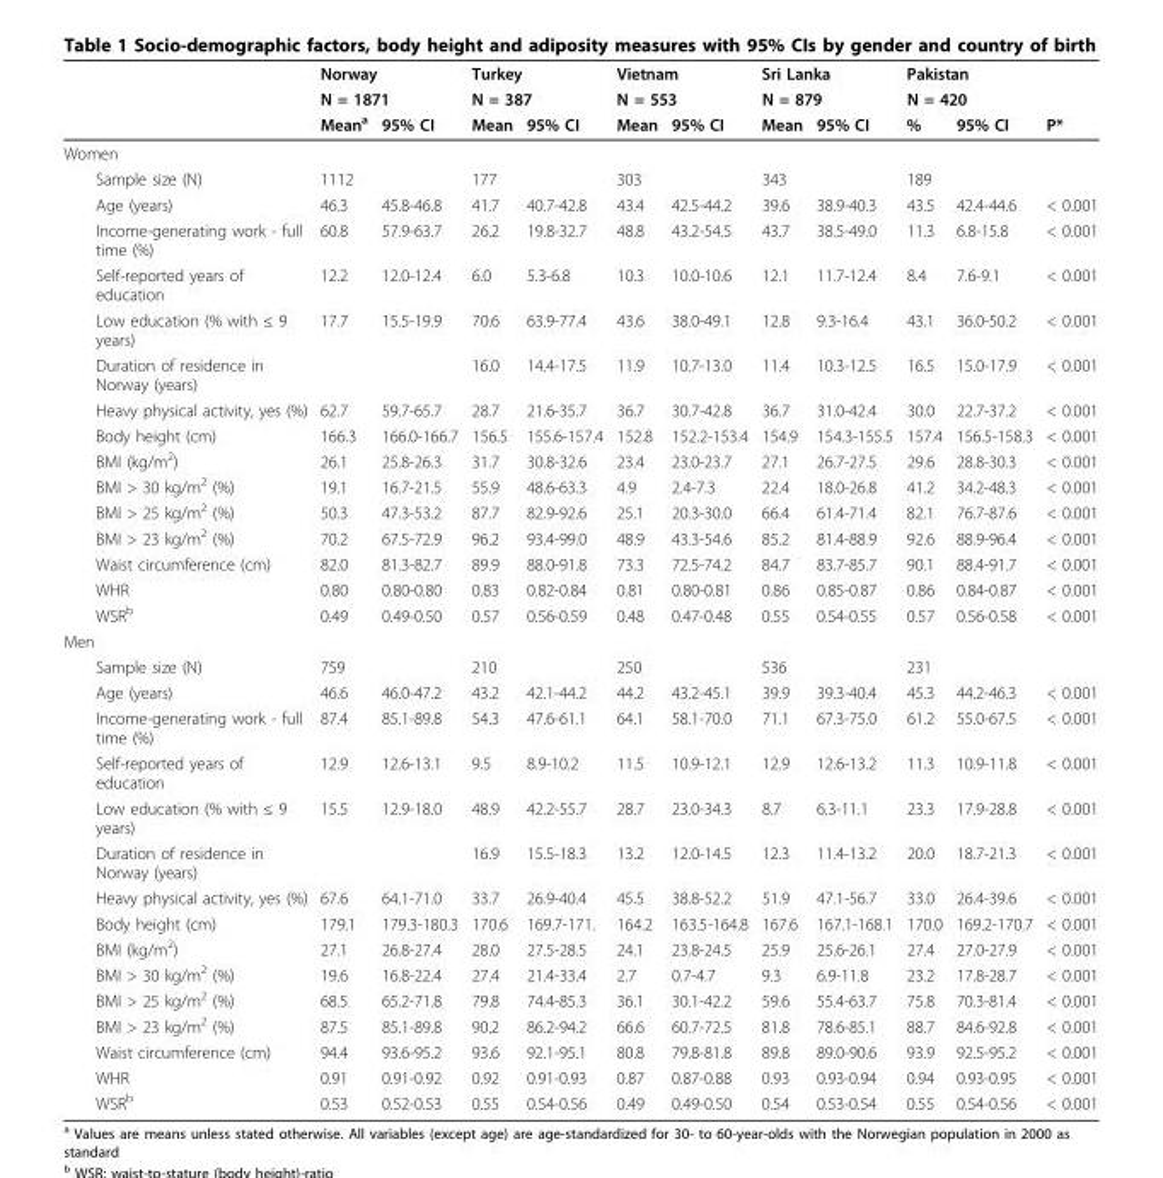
<table><thead><tr><td rowspan="3"></td><td rowspan="2" colspan="2">Norway N = 1871</td><td rowspan="2" colspan="2">Turkey N = 387</td><td rowspan="2" colspan="2">Vietnam N = 553</td><td rowspan="2" colspan="2">Sri Lanka N = 879</td><td rowspan="2" colspan="2">Pakistan N = 420</td><td rowspan="3">P*</td></tr><tr></tr><tr><td>Mean<sup>a</sup></td><td>95% CI</td><td>Mean</td><td>95% CI</td><td>Mean</td><td>95% CI</td><td>Mean</td><td>95% CI</td><td>%</td><td>95% CI</td></tr></thead><tbody><tr><td colspan="12">Women</td></tr><tr><td>Sample size (N)</td><td>1112</td><td></td><td>177</td><td></td><td>303</td><td></td><td>343</td><td></td><td>189</td><td></td><td></td></tr><tr><td>Age (years)</td><td>46.3</td><td>45.8-46.8</td><td>41.7</td><td>40.7-42.8</td><td>43.4</td><td>42.5-44.2</td><td>39.6</td><td>38.9-40.3</td><td>43.5</td><td>42.4-44.6</td><td>&lt; 0.001</td></tr><tr><td>Income-generating work - full time (%)</td><td>60.8</td><td>57.9-63.7</td><td>26.2</td><td>19.8-32.7</td><td>48.8</td><td>43.2-54.5</td><td>43.7</td><td>38.5-49.0</td><td>11.3</td><td>6.8-15.8</td><td>&lt; 0.001</td></tr><tr><td>Self-reported years of education</td><td>12.2</td><td>12.0-12.4</td><td>6.0</td><td>5.3-6.8</td><td>10.3</td><td>10.0-10.6</td><td>12.1</td><td>11.7-12.4</td><td>8.4</td><td>7.6-9.1</td><td>&lt; 0.001</td></tr><tr><td>Low education (% with ≤ 9 years)</td><td>17.7</td><td>15.5-19.9</td><td>70.6</td><td>63.9-77.4</td><td>43.6</td><td>38.0-49.1</td><td>12.8</td><td>9.3-16.4</td><td>43.1</td><td>36.0-50.2</td><td>&lt; 0.001</td></tr><tr><td>Duration of residence in Norway (years)</td><td></td><td></td><td>16.0</td><td>14.4-17.5</td><td>11.9</td><td>10.7-13.0</td><td>11.4</td><td>10.3-12.5</td><td>16.5</td><td>15.0-17.9</td><td>&lt; 0.001</td></tr><tr><td>Heavy physical activity, yes (%)</td><td>62.7</td><td>59.7-65.7</td><td>28.7</td><td>21.6-35.7</td><td>36.7</td><td>30.7-42.8</td><td>36.7</td><td>31.0-42.4</td><td>30.0</td><td>22.7-37.2</td><td>&lt; 0.001</td></tr><tr><td>Body height (cm)</td><td>166.3</td><td>166.0-166.7</td><td>156.5</td><td>155.6-157.4</td><td>152.8</td><td>152.2-153.4</td><td>154.9</td><td>154.3-155.5</td><td>157.4</td><td>156.5-158.3</td><td>&lt; 0.001</td></tr><tr><td>BMI (kg/m<sup>2</sup>)</td><td>26.1</td><td>25.8-26.3</td><td>31.7</td><td>30.8-32.6</td><td>23.4</td><td>23.0-23.7</td><td>27.1</td><td>26.7-27.5</td><td>29.6</td><td>28.8-30.3</td><td>&lt; 0.001</td></tr><tr><td>BMI &gt; 30 kg/m<sup>2</sup> (%)</td><td>19.1</td><td>16.7-21.5</td><td>55.9</td><td>48.6-63.3</td><td>4.9</td><td>2.4-7.3</td><td>22.4</td><td>18.0-26.8</td><td>41.2</td><td>34.2-48.3</td><td>&lt; 0.001</td></tr><tr><td>BMI &gt; 25 kg/m<sup>2</sup> (%)</td><td>50.3</td><td>47.3-53.2</td><td>87.7</td><td>82.9-92.6</td><td>25.1</td><td>20.3-30.0</td><td>66.4</td><td>61.4-71.4</td><td>82.1</td><td>76.7-87.6</td><td>&lt; 0.001</td></tr><tr><td>BMI &gt; 23 kg/m<sup>2</sup> (%)</td><td>70.2</td><td>67.5-72.9</td><td>96.2</td><td>93.4-99.0</td><td>48.9</td><td>43.3-54.6</td><td>85.2</td><td>81.4-88.9</td><td>92.6</td><td>88.9-96.4</td><td>&lt; 0.001</td></tr><tr><td>Waist circumference (cm)</td><td>82.0</td><td>81.3-82.7</td><td>89.9</td><td>88.0-91.8</td><td>73.3</td><td>72.5-74.2</td><td>84.7</td><td>83.7-85.7</td><td>90.1</td><td>88.4-91.7</td><td>&lt; 0.001</td></tr><tr><td>WHR</td><td>0.80</td><td>0.80-0.80</td><td>0.83</td><td>0.82-0.84</td><td>0.81</td><td>0.80-0.81</td><td>0.86</td><td>0.85-0.87</td><td>0.86</td><td>0.84-0.87</td><td>&lt; 0.001</td></tr><tr><td>WSR<sup>b</sup></td><td>0.49</td><td>0.49-0.50</td><td>0.57</td><td>0.56-0.59</td><td>0.48</td><td>0.47-0.48</td><td>0.55</td><td>0.54-0.55</td><td>0.57</td><td>0.56-0.58</td><td>&lt; 0.001</td></tr><tr><td colspan="12">Men</td></tr><tr><td>Sample size (N)</td><td>759</td><td></td><td>210</td><td></td><td>250</td><td></td><td>536</td><td></td><td>231</td><td></td><td></td></tr><tr><td>Age (years)</td><td>46.6</td><td>46.0-47.2</td><td>43.2</td><td>42.1-44.2</td><td>44.2</td><td>43.2-45.1</td><td>39.9</td><td>39.3-40.4</td><td>45.3</td><td>44.2-46.3</td><td>&lt; 0.001</td></tr><tr><td>Income-generating work - full time (%)</td><td>87.4</td><td>85.1-89.8</td><td>54.3</td><td>47.6-61.1</td><td>64.1</td><td>58.1-70.0</td><td>71.1</td><td>67.3-75.0</td><td>61.2</td><td>55.0-67.5</td><td>&lt; 0.001</td></tr><tr><td>Self-reported years of education</td><td>12.9</td><td>12.6-13.1</td><td>9.5</td><td>8.9-10.2</td><td>11.5</td><td>10.9-12.1</td><td>12.9</td><td>12.6-13.2</td><td>11.3</td><td>10.9-11.8</td><td>&lt; 0.001</td></tr><tr><td>Low education (% with ≤ 9 years)</td><td>15.5</td><td>12.9-18.0</td><td>48.9</td><td>42.2-55.7</td><td>28.7</td><td>23.0-34.3</td><td>8.7</td><td>6.3-11.1</td><td>23.3</td><td>17.9-28.8</td><td>&lt; 0.001</td></tr><tr><td>Duration of residence in Norway (years)</td><td></td><td></td><td>16.9</td><td>15.5-18.3</td><td>13.2</td><td>12.0-14.5</td><td>12.3</td><td>11.4-13.2</td><td>20.0</td><td>18.7-21.3</td><td>&lt; 0.001</td></tr><tr><td>Heavy physical activity, yes (%)</td><td>67.6</td><td>64.1-71.0</td><td>33.7</td><td>26.9-40.4</td><td>45.5</td><td>38.8-52.2</td><td>51.9</td><td>47.1-56.7</td><td>33.0</td><td>26.4-39.6</td><td>&lt; 0.001</td></tr><tr><td>Body height (cm)</td><td>179.1</td><td>179.3-180.3</td><td>170.6</td><td>169.7-171.</td><td>164.2</td><td>163.5-164.8</td><td>167.6</td><td>167.1-168.1</td><td>170.0</td><td>169.2-170.7</td><td>&lt; 0.001</td></tr><tr><td>BMI (kg/m<sup>2</sup>)</td><td>27.1</td><td>26.8-27.4</td><td>28.0</td><td>27.5-28.5</td><td>24.1</td><td>23.8-24.5</td><td>25.9</td><td>25.6-26.1</td><td>27.4</td><td>27.0-27.9</td><td>&lt; 0.001</td></tr><tr><td>BMI &gt; 30 kg/m<sup>2</sup> (%)</td><td>19.6</td><td>16.8-22.4</td><td>27.4</td><td>21.4-33.4</td><td>2.7</td><td>0.7-4.7</td><td>9.3</td><td>6.9-11.8</td><td>23.2</td><td>17.8-28.7</td><td>&lt; 0.001</td></tr><tr><td>BMI &gt; 25 kg/m<sup>2</sup> (%)</td><td>68.5</td><td>65.2-71.8</td><td>79.8</td><td>74.4-85.3</td><td>36.1</td><td>30.1-42.2</td><td>59.6</td><td>55.4-63.7</td><td>75.8</td><td>70.3-81.4</td><td>&lt; 0.001</td></tr><tr><td>BMI &gt; 23 kg/m<sup>2</sup> (%)</td><td>87.5</td><td>85.1-89.8</td><td>90.2</td><td>86.2-94.2</td><td>66.6</td><td>60.7-72.5</td><td>81.8</td><td>78.6-85.1</td><td>88.7</td><td>84.6-92.8</td><td>&lt; 0.001</td></tr><tr><td>Waist circumference (cm)</td><td>94.4</td><td>93.6-95.2</td><td>93.6</td><td>92.1-95.1</td><td>80.8</td><td>79.8-81.8</td><td>89.8</td><td>89.0-90.6</td><td>93.9</td><td>92.5-95.2</td><td>&lt; 0.001</td></tr><tr><td>WHR</td><td>0.91</td><td>0.91-0.92</td><td>0.92</td><td>0.91-0.93</td><td>0.87</td><td>0.87-0.88</td><td>0.93</td><td>0.93-0.94</td><td>0.94</td><td>0.93-0.95</td><td>&lt; 0.001</td></tr><tr><td>WSR<sup>b</sup></td><td>0.53</td><td>0.52-0.53</td><td>0.55</td><td>0.54-0.56</td><td>0.49</td><td>0.49-0.50</td><td>0.54</td><td>0.53-0.54</td><td>0.55</td><td>0.54-0.56</td><td>&lt; 0.001</td></tr></tbody></table>